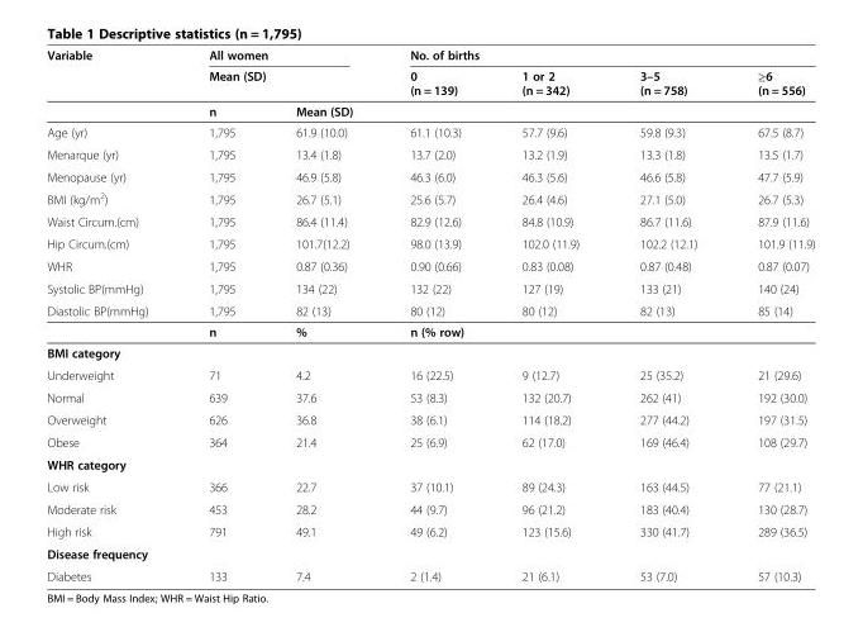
<table><thead><tr><td rowspan="4">Variable Age (yr)</td><td rowspan="2" colspan="2">All women Mean (SD)</td><td colspan="4">No. of births</td></tr><tr><td>0 (n = 139)</td><td>1 or 2 (n = 342)</td><td>3–5 (n = 758)</td><td>≥6 (n = 556)</td></tr><tr><td rowspan="2">n 1,795</td><td colspan="5">Mean (SD)</td></tr><tr><td>61.9 (10.0)</td><td>61.1 (10.3)</td><td>57.7 (9.6)</td><td>59.8 (9.3)</td><td>67.5 (8.7)</td></tr></thead><tbody><tr><td>Menarque (yr)</td><td>1,795</td><td>13.4 (1.8)</td><td>13.7 (2.0)</td><td>13.2 (1.9)</td><td>13.3 (1.8)</td><td>13.5 (1.7)</td></tr><tr><td>Menopause (yr)</td><td>1,795</td><td>46.9 (5.8)</td><td>46.3 (6.0)</td><td>46.3 (5.6)</td><td>46.6 (5.8)</td><td>47.7 (5.9)</td></tr><tr><td>BMI (kg/m<sup>2</sup>)</td><td>1,795</td><td>26.7 (5.1)</td><td>25.6 (5.7)</td><td>26.4 (4.6)</td><td>27.1 (5.0)</td><td>26.7 (5.3)</td></tr><tr><td>Waist Circum.(cm)</td><td>1,795</td><td>86.4 (11.4)</td><td>82.9 (12.6)</td><td>84.8 (10.9)</td><td>86.7 (11.6)</td><td>87.9 (11.6)</td></tr><tr><td>Hip Circum.(cm)</td><td>1,795</td><td>101.7(12.2)</td><td>98.0 (13.9)</td><td>102.0 (11.9)</td><td>102.2 (12.1)</td><td>101.9 (11.9)</td></tr><tr><td>WHR</td><td>1,795</td><td>0.87 (0.36)</td><td>0.90 (0.66)</td><td>0.83 (0.08)</td><td>0.87 (0.48)</td><td>0.87 (0.07)</td></tr><tr><td>Systolic BP(mmHg)</td><td>1,795</td><td>134 (22)</td><td>132 (22)</td><td>127 (19)</td><td>133 (21)</td><td>140 (24)</td></tr><tr><td rowspan="2">Diastolic BP(mmHg)</td><td>1,795</td><td>82 (13)</td><td>80 (12)</td><td>80 (12)</td><td>82 (13)</td><td>85 (14)</td></tr><tr><td>n</td><td>%</td><td colspan="4">n (% row)</td></tr><tr><td colspan="7">BMI category</td></tr><tr><td>Underweight</td><td>71</td><td>4.2</td><td>16 (22.5)</td><td>9 (12.7)</td><td>25 (35.2)</td><td>21 (29.6)</td></tr><tr><td>Normal</td><td>639</td><td>37.6</td><td>53 (8.3)</td><td>132 (20.7)</td><td>262 (41)</td><td>192 (30.0)</td></tr><tr><td>Overweight</td><td>626</td><td>36.8</td><td>38 (6.1)</td><td>114 (18.2)</td><td>277 (44.2)</td><td>197 (31.5)</td></tr><tr><td>Obese</td><td>364</td><td>21.4</td><td>25 (6.9)</td><td>62 (17.0)</td><td>169 (46.4)</td><td>108 (29.7)</td></tr><tr><td colspan="7">WHR category</td></tr><tr><td>Low risk</td><td>366</td><td>22.7</td><td>37 (10.1)</td><td>89 (24.3)</td><td>163 (44.5)</td><td>77 (21.1)</td></tr><tr><td>Moderate risk</td><td>453</td><td>28.2</td><td>44 (9.7)</td><td>96 (21.2)</td><td>183 (40.4)</td><td>130 (28.7)</td></tr><tr><td>High risk</td><td>791</td><td>49.1</td><td>49 (6.2)</td><td>123 (15.6)</td><td>330 (41.7)</td><td>289 (36.5)</td></tr><tr><td colspan="7">Disease frequency</td></tr><tr><td>Diabetes</td><td>133</td><td>7.4</td><td>2 (1.4)</td><td>21 (6.1)</td><td>53 (7.0)</td><td>57 (10.3)</td></tr></tbody></table>